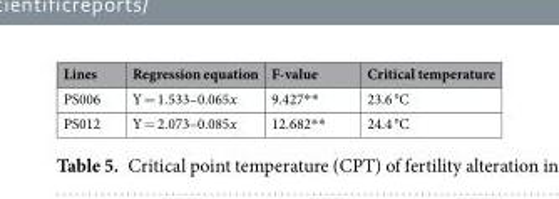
<table><thead><tr><td>Lines</td><td>Regression equation</td><td>F-value</td><td>Critical temperature</td></tr></thead><tbody><tr><td>PS006</td><td>Y = 1.533–0.065x</td><td>9.427**</td><td>23.6 °C</td></tr><tr><td>PS012</td><td>Y = 2.073–0.085x</td><td>12.682**</td><td>24.4 °C</td></tr></tbody></table>